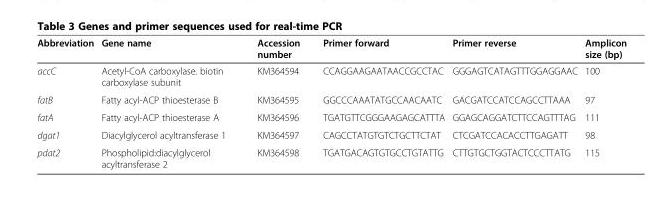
<table><thead><tr><td>Abbreviation</td><td>Gene name</td><td>Accession number</td><td>Primer forward</td><td>Primer reverse</td><td>Amplicon size (bp)</td></tr></thead><tbody><tr><td>accC</td><td>Acetyl-CoA carboxylase. biotin carboxylase subunit</td><td>KM364594</td><td>CCAGGAAGAATAACCGCCTAC</td><td>GGGAGTCATAGTTTGGAGGAAC</td><td>100</td></tr><tr><td>fatB</td><td>Fatty acyl-ACP thioesterase B</td><td>KM364595</td><td>GGCCCAAATATGCCAACAATC</td><td>GACGATCCATCCAGCCTTAAA</td><td>97</td></tr><tr><td>fatA</td><td>Fatty acyl-ACP thioesterase A</td><td>KM364596</td><td>TGATGTTCGGGAAGAGCATTTA</td><td>GGAGCAGGATCTTCCAGTTTAG</td><td>111</td></tr><tr><td>dgat1</td><td>Diacylglycerol acyltransferase 1</td><td>KM364597</td><td>CAGCCTATGTGTCTGCTTCTAT</td><td>CTCGATCCACACCTTGAGATT</td><td>98</td></tr><tr><td>pdat2</td><td>Phospholipid:diacylglycerol acyltransferase 2</td><td>KM364598</td><td>TGATGACAGTGTGCCTGTATTG</td><td>CTTGTGCTGGTACTCCCTTATG</td><td>115</td></tr></tbody></table>